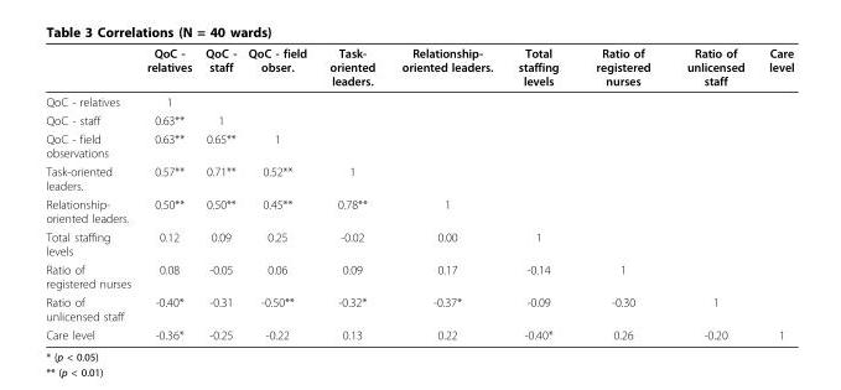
<table><thead><tr><td></td><td>QoC - relatives</td><td>QoC - staff</td><td>QoC - field obser.</td><td>Task- oriented leaders.</td><td>Relationship- oriented leaders.</td><td>Total staffing levels</td><td>Ratio of registered nurses</td><td>Ratio of unlicensed staff</td><td>Care level</td></tr></thead><tbody><tr><td>QoC - relatives</td><td>1</td><td></td><td></td><td></td><td></td><td></td><td></td><td></td><td></td></tr><tr><td>QoC - staff</td><td>0.63**</td><td>1</td><td></td><td></td><td></td><td></td><td></td><td></td><td></td></tr><tr><td>QoC - field observations</td><td>0.63**</td><td>0.65**</td><td>1</td><td></td><td></td><td></td><td></td><td></td><td></td></tr><tr><td>Task-oriented leaders.</td><td>0.57**</td><td>0.71**</td><td>0.52**</td><td>1</td><td></td><td></td><td></td><td></td><td></td></tr><tr><td>Relationship- oriented leaders.</td><td>0.50**</td><td>0.50**</td><td>0.45**</td><td>0.78**</td><td>1</td><td></td><td></td><td></td><td></td></tr><tr><td>Total staffing levels</td><td>0.12</td><td>0.09</td><td>0.25</td><td>-0.02</td><td>0.00</td><td>1</td><td></td><td></td><td></td></tr><tr><td>Ratio of registered nurses</td><td>0.08</td><td>-0.05</td><td>0.06</td><td>0.09</td><td>0.17</td><td>-0.14</td><td>1</td><td></td><td></td></tr><tr><td>Ratio of unlicensed staff</td><td>-0.40*</td><td>-0.31</td><td>-0.50**</td><td>-0.32*</td><td>-0.37*</td><td>-0.09</td><td>-0.30</td><td>1</td><td></td></tr><tr><td>Care level</td><td>-0.36*</td><td>-0.25</td><td>-0.22</td><td>0.13</td><td>0.22</td><td>-0.40*</td><td>0.26</td><td>-0.20</td><td>1</td></tr></tbody></table>